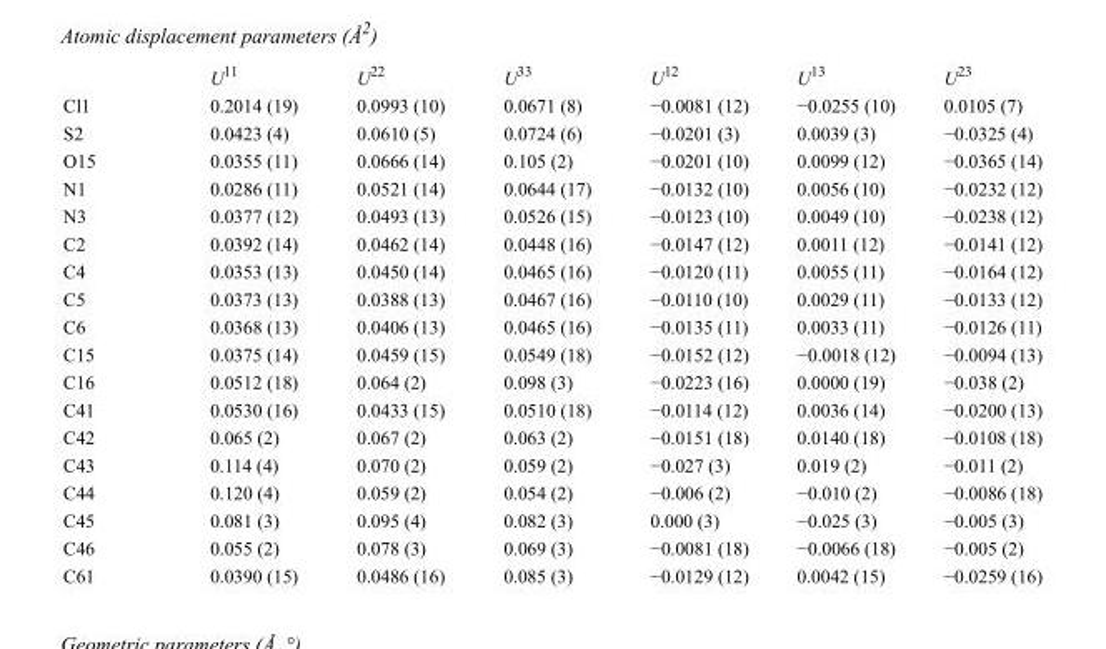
<table><thead><tr><td></td><td>U<sup>11</sup></td><td>U<sup>22</sup></td><td>U<sup>33</sup></td><td>U<sup>12</sup></td><td>U<sup>13</sup></td><td>U<sup>23</sup></td></tr></thead><tbody><tr><td>Cl1</td><td>0.2014 (19)</td><td>0.0993 (10)</td><td>0.0671 (8)</td><td>−0.0081 (12)</td><td>−0.0255 (10)</td><td>0.0105 (7)</td></tr><tr><td>S2</td><td>0.0423 (4)</td><td>0.0610 (5)</td><td>0.0724 (6)</td><td>−0.0201 (3)</td><td>0.0039 (3)</td><td>−0.0325 (4)</td></tr><tr><td>O15</td><td>0.0355 (11)</td><td>0.0666 (14)</td><td>0.105 (2)</td><td>−0.0201 (10)</td><td>0.0099 (12)</td><td>−0.0365 (14)</td></tr><tr><td>N1</td><td>0.0286 (11)</td><td>0.0521 (14)</td><td>0.0644 (17)</td><td>−0.0132 (10)</td><td>0.0056 (10)</td><td>−0.0232 (12)</td></tr><tr><td>N3</td><td>0.0377 (12)</td><td>0.0493 (13)</td><td>0.0526 (15)</td><td>−0.0123 (10)</td><td>0.0049 (10)</td><td>−0.0238 (12)</td></tr><tr><td>C2</td><td>0.0392 (14)</td><td>0.0462 (14)</td><td>0.0448 (16)</td><td>−0.0147 (12)</td><td>0.0011 (12)</td><td>−0.0141 (12)</td></tr><tr><td>C4</td><td>0.0353 (13)</td><td>0.0450 (14)</td><td>0.0465 (16)</td><td>−0.0120 (11)</td><td>0.0055 (11)</td><td>−0.0164 (12)</td></tr><tr><td>C5</td><td>0.0373 (13)</td><td>0.0388 (13)</td><td>0.0467 (16)</td><td>−0.0110 (10)</td><td>0.0029 (11)</td><td>−0.0133 (12)</td></tr><tr><td>C6</td><td>0.0368 (13)</td><td>0.0406 (13)</td><td>0.0465 (16)</td><td>−0.0135 (11)</td><td>0.0033 (11)</td><td>−0.0126 (11)</td></tr><tr><td>C15</td><td>0.0375 (14)</td><td>0.0459 (15)</td><td>0.0549 (18)</td><td>−0.0152 (12)</td><td>−0.0018 (12)</td><td>−0.0094 (13)</td></tr><tr><td>C16</td><td>0.0512 (18)</td><td>0.064 (2)</td><td>0.098 (3)</td><td>−0.0223 (16)</td><td>0.0000 (19)</td><td>−0.038 (2)</td></tr><tr><td>C41</td><td>0.0530 (16)</td><td>0.0433 (15)</td><td>0.0510 (18)</td><td>−0.0114 (12)</td><td>0.0036 (14)</td><td>−0.0200 (13)</td></tr><tr><td>C42</td><td>0.065 (2)</td><td>0.067 (2)</td><td>0.063 (2)</td><td>−0.0151 (18)</td><td>0.0140 (18)</td><td>−0.0108 (18)</td></tr><tr><td>C43</td><td>0.114 (4)</td><td>0.070 (2)</td><td>0.059 (2)</td><td>−0.027 (3)</td><td>0.019 (2)</td><td>−0.011 (2)</td></tr><tr><td>C44</td><td>0.120 (4)</td><td>0.059 (2)</td><td>0.054 (2)</td><td>−0.006 (2)</td><td>−0.010 (2)</td><td>−0.0086 (18)</td></tr><tr><td>C45</td><td>0.081 (3)</td><td>0.095 (4)</td><td>0.082 (3)</td><td>0.000 (3)</td><td>−0.025 (3)</td><td>−0.005 (3)</td></tr><tr><td>C46</td><td>0.055 (2)</td><td>0.078 (3)</td><td>0.069 (3)</td><td>−0.0081 (18)</td><td>−0.0066 (18)</td><td>−0.005 (2)</td></tr><tr><td>C61</td><td>0.0390 (15)</td><td>0.0486 (16)</td><td>0.085 (3)</td><td>−0.0129 (12)</td><td>0.0042 (15)</td><td>−0.0259 (16)</td></tr></tbody></table>